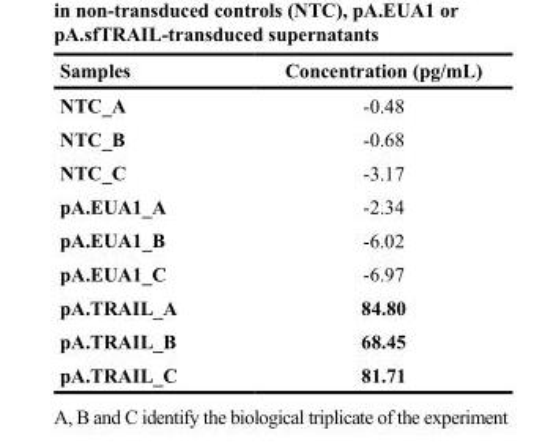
<table><thead><tr><td>Samples</td><td>Concentration (pg/mL)</td></tr></thead><tbody><tr><td>NTC_A</td><td>-0.48</td></tr><tr><td>NTC_B</td><td>-0.68</td></tr><tr><td>NTC_C</td><td>-3.17</td></tr><tr><td>pA.EUA1_A</td><td>-2.34</td></tr><tr><td>pA.EUA1_B</td><td>-6.02</td></tr><tr><td>pA.EUA1_C</td><td>-6.97</td></tr><tr><td>pA.TRAIL_A</td><td>84.80</td></tr><tr><td>pA.TRAIL_B</td><td>68.45</td></tr><tr><td>pA.TRAIL_C</td><td>81.71</td></tr></tbody></table>